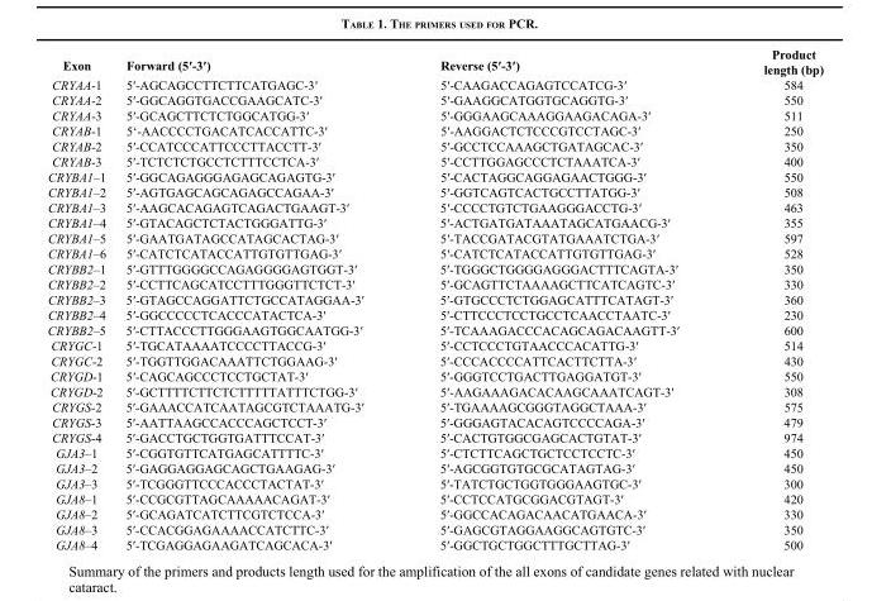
<table><thead><tr><td>Exon</td><td>Forward (5′-3′)</td><td>Reverse (5′-3′)</td><td>Product length (bp)</td></tr></thead><tbody><tr><td>CRYAA-1</td><td>5′-AGCAGCCTTCTTCATGAGC-3′</td><td>5′-CAAGACCAGAGTCCATCG-3′</td><td>584</td></tr><tr><td>CRYAA-2</td><td>5′-GGCAGGTGACCGAAGCATC-3′</td><td>5′-GAAGGCATGGTGCAGGTG-3′</td><td>550</td></tr><tr><td>CRYAA-3</td><td>5′-GCAGCTTCTCTGGCATGG-3′</td><td>5′-GGGAAGCAAAGGAAGACAGA-3′</td><td>511</td></tr><tr><td>CRYAB-1</td><td>5‘-AACCCCTGACATCACCATTC-3′</td><td>5′-AAGGACTCTCCCGTCCTAGC-3′</td><td>250</td></tr><tr><td>CRYAB-2</td><td>5′-CCATCCCATTCCCTTACCTT-3′</td><td>5′-GCCTCCAAAGCTGATAGCAC-3′</td><td>350</td></tr><tr><td>CRYAB-3</td><td>5′-TCTCTCTGCCTCTTTCCTCA-3′</td><td>5′-CCTTGGAGCCCTCTAAATCA-3′</td><td>400</td></tr><tr><td>CRYBA1–1</td><td>5′-GGCAGAGGGAGAGCAGAGTG-3′</td><td>5′-CACTAGGCAGGAGAACTGGG-3′</td><td>550</td></tr><tr><td>CRYBA1–2</td><td>5′-AGTGAGCAGCAGAGCCAGAA-3′</td><td>5′-GGTCAGTCACTGCCTTATGG-3′</td><td>508</td></tr><tr><td>CRYBA1–3</td><td>5′-AAGCACAGAGTCAGACTGAAGT-3′</td><td>5′-CCCCTGTCTGAAGGGACCTG-3′</td><td>463</td></tr><tr><td>CRYBA1–4</td><td>5′-GTACAGCTCTACTGGGATTG-3′</td><td>5′-ACTGATGATAAATAGCATGAACG-3′</td><td>355</td></tr><tr><td>CRYBA1–5</td><td>5′-GAATGATAGCCATAGCACTAG-3′</td><td>5′-TACCGATACGTATGAAATCTGA-3′</td><td>597</td></tr><tr><td>CRYBA1–6</td><td>5′-CATCTCATACCATTGTGTTGAG-3′</td><td>5′-CATCTCATACCATTGTGTTGAG-3′</td><td>528</td></tr><tr><td>CRYBB2–1</td><td>5′-GTTTGGGGCCAGAGGGGAGTGGT-3′</td><td>5′-TGGGCTGGGGAGGGACTTTCAGTA-3′</td><td>350</td></tr><tr><td>CRYBB2–2</td><td>5′-CCTTCAGCATCCTTTGGGTTCTCT-3′</td><td>5′-GCAGTTCTAAAAGCTTCATCAGTC-3′</td><td>330</td></tr><tr><td>CRYBB2–3</td><td>5′-GTAGCCAGGATTCTGCCATAGGAA-3′</td><td>5′-GTGCCCTCTGGAGCATTTCATAGT-3′</td><td>360</td></tr><tr><td>CRYBB2–4</td><td>5′-GGCCCCCTCACCCATACTCA-3′</td><td>5′-CTTCCCTCCTGCCTCAACCTAATC-3′</td><td>230</td></tr><tr><td>CRYBB2–5</td><td>5′-CTTACCCTTGGGAAGTGGCAATGG-3′</td><td>5′-TCAAAGACCCACAGCAGACAAGTT-3′</td><td>600</td></tr><tr><td>CRYGC-1</td><td>5′-TGCATAAAATCCCCTTACCG-3′</td><td>5′-CCTCCCTGTAACCCACATTG-3′</td><td>514</td></tr><tr><td>CRYGC-2</td><td>5′-TGGTTGGACAAATTCTGGAAG-3′</td><td>5′-CCCACCCCATTCACTTCTTA-3′</td><td>430</td></tr><tr><td>CRYGD-1</td><td>5′-CAGCAGCCCTCCTGCTAT-3′</td><td>5′-GGGTCCTGACTTGAGGATGT-3′</td><td>550</td></tr><tr><td>CRYGD-2</td><td>5′-GCTTTTCTTCTCTTTTTATTTCTGG-3′</td><td>5′-AAGAAAGACACAAGCAAATCAGT-3′</td><td>308</td></tr><tr><td>CRYGS-2</td><td>5′-GAAACCATCAATAGCGTCTAAATG-3′</td><td>5′-TGAAAAGCGGGTAGGCTAAA-3′</td><td>575</td></tr><tr><td>CRYGS-3</td><td>5′-AATTAAGCCACCCAGCTCCT-3′</td><td>5′-GGGAGTACACAGTCCCCAGA-3′</td><td>479</td></tr><tr><td>CRYGS-4</td><td>5′-GACCTGCTGGTGATTTCCAT-3′</td><td>5′-CACTGTGGCGAGCACTGTAT-3′</td><td>974</td></tr><tr><td>GJA3–1</td><td>5′-CGGTGTTCATGAGCATTTTC-3′</td><td>5′-CTCTTCAGCTGCTCCTCCTC-3′</td><td>450</td></tr><tr><td>GJA3–2</td><td>5′-GAGGAGGAGCAGCTGAAGAG-3′</td><td>5′-AGCGGTGTGCGCATAGTAG-3′</td><td>450</td></tr><tr><td>GJA3–3</td><td>5′-TCGGGTTCCCACCCTACTAT-3′</td><td>5′-TATCTGCTGGTGGGAAGTGC-3′</td><td>300</td></tr><tr><td>GJA8–1</td><td>5′-CCGCGTTAGCAAAAACAGAT-3′</td><td>5′-CCTCCATGCGGACGTAGT-3′</td><td>420</td></tr><tr><td>GJA8–2</td><td>5′-GCAGATCATCTTCGTCTCCA-3′</td><td>5′-GGCCACAGACAACATGAACA-3′</td><td>330</td></tr><tr><td>GJA8–3</td><td>5′-CCACGGAGAAAACCATCTTC-3′</td><td>5′-GAGCGTAGGAAGGCAGTGTC-3′</td><td>350</td></tr><tr><td>GJA8–4</td><td>5′-TCGAGGAGAAGATCAGCACA-3′</td><td>5′-GGCTGCTGGCTTTGCTTAG-3′</td><td>500</td></tr></tbody></table>